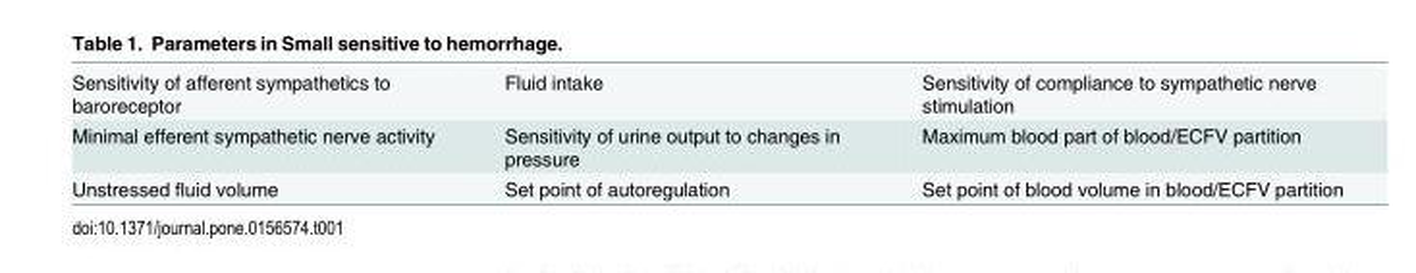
<table><tbody><tr><td>Sensitivity of afferent sympathetics to baroreceptor</td><td>Fluid intake</td><td>Sensitivity of compliance to sympathetic nerve stimulation</td></tr><tr><td>Minimal efferent sympathetic nerve activity</td><td>Sensitivity of urine output to changes in pressure</td><td>Maximum blood part of blood/ECFV partition</td></tr><tr><td>Unstressed fluid volume</td><td>Set point of autoregulation</td><td>Set point of blood volume in blood/ECFV partition</td></tr></tbody></table>